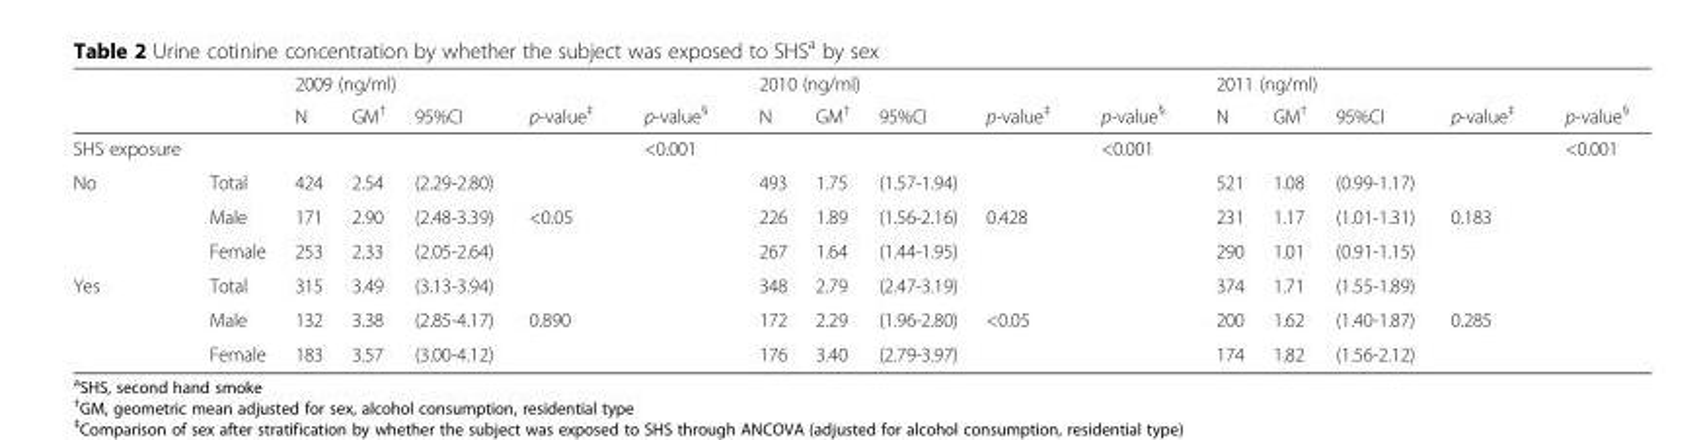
<table><thead><tr><td rowspan="2"></td><td rowspan="2"></td><td colspan="3">2009 (ng/ml)</td><td rowspan="2">p-value<sup>‡</sup></td><td rowspan="2">p-value<sup>§</sup></td><td colspan="3">2010 (ng/ml)</td><td rowspan="2">p-value<sup>‡</sup></td><td rowspan="2">p-value<sup>§</sup></td><td colspan="3">2011 (ng/ml)</td><td rowspan="2">p-value<sup>‡</sup></td><td rowspan="2">p-value<sup>§</sup></td></tr><tr><td>N</td><td>GM<sup>†</sup></td><td>95%CI</td><td>N</td><td>GM<sup>†</sup></td><td>95%CI</td><td>N</td><td>GM<sup>†</sup></td><td>95%CI</td></tr></thead><tbody><tr><td>SHS exposure</td><td></td><td></td><td></td><td></td><td></td><td>&lt;0.001</td><td></td><td></td><td></td><td></td><td>&lt;0.001</td><td></td><td></td><td></td><td></td><td>&lt;0.001</td></tr><tr><td rowspan="3">No</td><td>Total</td><td>424</td><td>2.54</td><td>(2.29-2.80)</td><td></td><td></td><td>493</td><td>1.75</td><td>(1.57-1.94)</td><td></td><td></td><td>521</td><td>1.08</td><td>(0.99-1.17)</td><td></td><td></td></tr><tr><td>Male</td><td>171</td><td>2.90</td><td>(2.48-3.39)</td><td>&lt;0.05</td><td></td><td>226</td><td>1.89</td><td>(1.56-2.16)</td><td>0.428</td><td></td><td>231</td><td>1.17</td><td>(1.01-1.31)</td><td>0.183</td><td></td></tr><tr><td>Female</td><td>253</td><td>2.33</td><td>(2.05-2.64)</td><td></td><td></td><td>267</td><td>1.64</td><td>(1.44-1.95)</td><td></td><td></td><td>290</td><td>1.01</td><td>(0.91-1.15)</td><td></td><td></td></tr><tr><td rowspan="3">Yes</td><td>Total</td><td>315</td><td>3.49</td><td>(3.13-3.94)</td><td></td><td></td><td>348</td><td>2.79</td><td>(2.47-3.19)</td><td></td><td></td><td>374</td><td>1.71</td><td>(1.55-1.89)</td><td></td><td></td></tr><tr><td>Male</td><td>132</td><td>3.38</td><td>(2.85-4.17)</td><td>0.890</td><td></td><td>172</td><td>2.29</td><td>(1.96-2.80)</td><td>&lt;0.05</td><td></td><td>200</td><td>1.62</td><td>(1.40-1.87)</td><td>0.285</td><td></td></tr><tr><td>Female</td><td>183</td><td>3.57</td><td>(3.00-4.12)</td><td></td><td></td><td>176</td><td>3.40</td><td>(2.79-3.97)</td><td></td><td></td><td>174</td><td>1.82</td><td>(1.56-2.12)</td><td></td><td></td></tr></tbody></table>